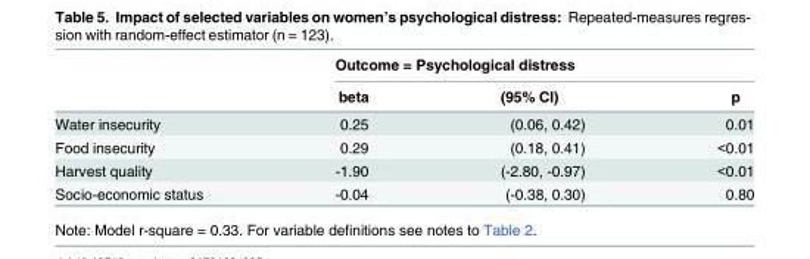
<table><thead><tr><td rowspan="2"></td><td colspan="3">Outcome = Psychological distress</td></tr><tr><td>beta</td><td>(95% CI)</td><td>p</td></tr></thead><tbody><tr><td>Water insecurity</td><td>0.25</td><td>(0.06, 0.42)</td><td>0.01</td></tr><tr><td>Food insecurity</td><td>0.29</td><td>(0.18, 0.41)</td><td>&lt;0.01</td></tr><tr><td>Harvest quality</td><td>-1.90</td><td>(-2.80, -0.97)</td><td>&lt;0.01</td></tr><tr><td>Socio-economic status</td><td>-0.04</td><td>(-0.38, 0.30)</td><td>0.80</td></tr></tbody></table>